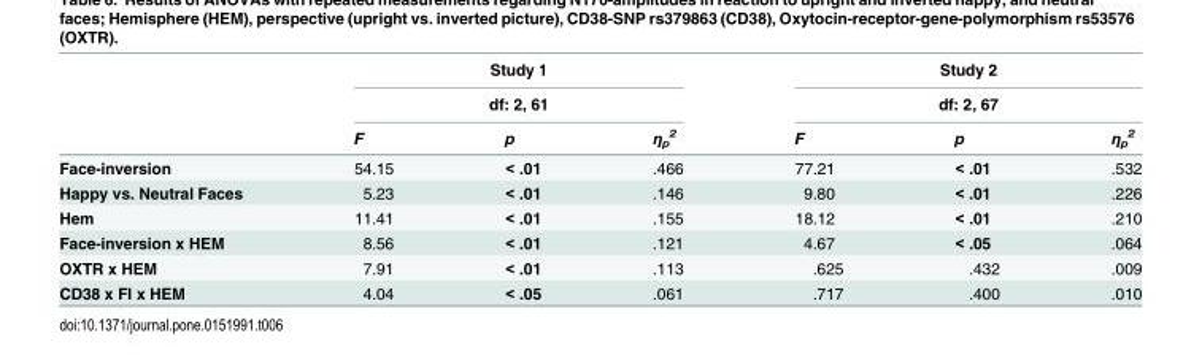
<table><thead><tr><td rowspan="3"></td><td rowspan="2" colspan="3">Study 1 df: 2, 61</td><td rowspan="2" colspan="3">Study 2 df: 2, 67</td></tr><tr></tr><tr><td>F</td><td>p</td><td>η<sub>p</sub> <sup>2</sup></td><td>F</td><td>p</td><td>η<sub>p</sub> <sup>2</sup></td></tr></thead><tbody><tr><td>Face-inversion</td><td>54.15</td><td>&lt; .01</td><td>.466</td><td>77.21</td><td>&lt; .01</td><td>.532</td></tr><tr><td>Happy vs. Neutral Faces</td><td>5.23</td><td>&lt; .01</td><td>.146</td><td>9.80</td><td>&lt; .01</td><td>.226</td></tr><tr><td>Hem</td><td>11.41</td><td>&lt; .01</td><td>.155</td><td>18.12</td><td>&lt; .01</td><td>.210</td></tr><tr><td>Face-inversion x HEM</td><td>8.56</td><td>&lt; .01</td><td>.121</td><td>4.67</td><td>&lt; .05</td><td>.064</td></tr><tr><td>OXTR x HEM</td><td>7.91</td><td>&lt; .01</td><td>.113</td><td>.625</td><td>.432</td><td>.009</td></tr><tr><td>CD38 x FI x HEM</td><td>4.04</td><td>&lt; .05</td><td>.061</td><td>.717</td><td>.400</td><td>.010</td></tr></tbody></table>